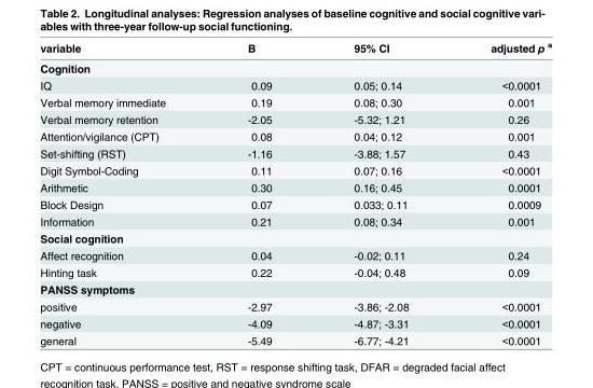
<table><thead><tr><td>variable</td><td>B</td><td>95% CI</td><td>adjusted p <sup>a</sup></td></tr></thead><tbody><tr><td colspan="4">Cognition</td></tr><tr><td>IQ</td><td>0.09</td><td>0.05; 0.14</td><td>&lt;0.0001</td></tr><tr><td>Verbal memory immediate</td><td>0.19</td><td>0.08; 0.30</td><td>0.001</td></tr><tr><td>Verbal memory retention</td><td>-2.05</td><td>-5.32; 1.21</td><td>0.26</td></tr><tr><td>Attention/vigilance (CPT)</td><td>0.08</td><td>0.04; 0.12</td><td>0.001</td></tr><tr><td>Set-shifting (RST)</td><td>-1.16</td><td>-3.88; 1.57</td><td>0.43</td></tr><tr><td>Digit Symbol-Coding</td><td>0.11</td><td>0.07; 0.16</td><td>&lt;0.0001</td></tr><tr><td>Arithmetic</td><td>0.30</td><td>0.16; 0.45</td><td>0.0001</td></tr><tr><td>Block Design</td><td>0.07</td><td>0.033; 0.11</td><td>0.0009</td></tr><tr><td>Information</td><td>0.21</td><td>0.08; 0.34</td><td>0.001</td></tr><tr><td colspan="4">Social cognition</td></tr><tr><td>Affect recognition</td><td>0.04</td><td>-0.02; 0.11</td><td>0.24</td></tr><tr><td>Hinting task</td><td>0.22</td><td>-0.04; 0.48</td><td>0.09</td></tr><tr><td colspan="4">PANSS symptoms</td></tr><tr><td>positive</td><td>-2.97</td><td>-3.86; -2.08</td><td>&lt;0.0001</td></tr><tr><td>negative</td><td>-4.09</td><td>-4.87; -3.31</td><td>&lt;0.0001</td></tr><tr><td>general</td><td>-5.49</td><td>-6.77; -4.21</td><td>&lt;0.0001</td></tr></tbody></table>